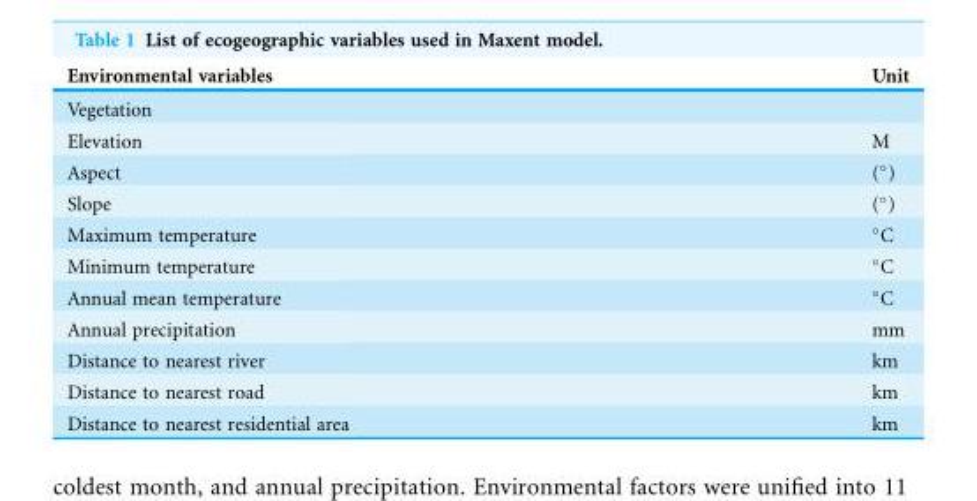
<table><thead><tr><td>Environmental variables</td><td>Unit</td></tr></thead><tbody><tr><td colspan="2">Vegetation</td></tr><tr><td>Elevation</td><td>M</td></tr><tr><td>Aspect</td><td>(°)</td></tr><tr><td>Slope</td><td>(°)</td></tr><tr><td>Maximum temperature</td><td>°C</td></tr><tr><td>Minimum temperature</td><td>°C</td></tr><tr><td>Annual mean temperature</td><td>°C</td></tr><tr><td>Annual precipitation</td><td>mm</td></tr><tr><td>Distance to nearest river</td><td>km</td></tr><tr><td>Distance to nearest road</td><td>km</td></tr><tr><td>Distance to nearest residential area</td><td>km</td></tr></tbody></table>